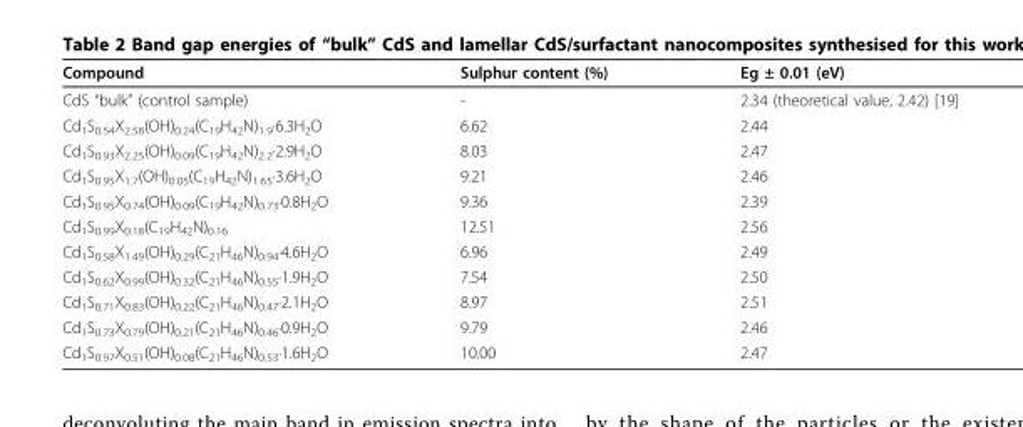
<table><thead><tr><td>Compound</td><td>Sulphur content (%)</td><td>Eg ± 0.01 (eV)</td></tr></thead><tbody><tr><td>CdS “bulk” (control sample)</td><td>-</td><td>2.34 (theoretical value, 2.42) [19]</td></tr><tr><td>Cd<sub>1</sub>S<sub>0.54</sub>X<sub>2.58</sub>(OH)<sub>0.24</sub>(C<sub>19</sub>H<sub>42</sub>N)<sub>1.9</sub>·6.3H<sub>2</sub>O</td><td>6.62</td><td>2.44</td></tr><tr><td>Cd<sub>1</sub>S<sub>0.93</sub>X<sub>2.25</sub>(OH)<sub>0.09</sub>(C<sub>19</sub>H<sub>42</sub>N)<sub>2.2</sub>·2.9H<sub>2</sub>O</td><td>8.03</td><td>2.47</td></tr><tr><td>Cd<sub>1</sub>S<sub>0.95</sub>X<sub>1.7</sub>(OH)<sub>0.05</sub>(C<sub>19</sub>H<sub>42</sub>N)<sub>1.65</sub>·3.6H<sub>2</sub>O</td><td>9.21</td><td>2.46</td></tr><tr><td>Cd<sub>1</sub>S<sub>0.95</sub>X<sub>0.74</sub>(OH)<sub>0.09</sub>(C<sub>19</sub>H<sub>42</sub>N)<sub>0.73</sub>·0.8H<sub>2</sub>O</td><td>9.36</td><td>2.39</td></tr><tr><td>Cd<sub>1</sub>S<sub>0.99</sub>X<sub>0.18</sub>(C<sub>19</sub>H<sub>42</sub>N)<sub>0.16</sub></td><td>12.51</td><td>2.56</td></tr><tr><td>Cd<sub>1</sub>S<sub>0.58</sub>X<sub>1.49</sub>(OH)<sub>0.29</sub>(C<sub>21</sub>H<sub>46</sub>N)<sub>0.94</sub>·4.6H<sub>2</sub>O</td><td>6.96</td><td>2.49</td></tr><tr><td>Cd<sub>1</sub>S<sub>0.62</sub>X<sub>0.99</sub>(OH)<sub>0.32</sub>(C<sub>21</sub>H<sub>46</sub>N)<sub>0.55</sub>·1.9H<sub>2</sub>O</td><td>7.54</td><td>2.50</td></tr><tr><td>Cd<sub>1</sub>S<sub>0.71</sub>X<sub>0.83</sub>(OH)<sub>0.22</sub>(C<sub>21</sub>H<sub>46</sub>N)<sub>0.47</sub>·2.1H<sub>2</sub>O</td><td>8.97</td><td>2.51</td></tr><tr><td>Cd<sub>1</sub>S<sub>0.73</sub>X<sub>0.79</sub>(OH)<sub>0.21</sub>(C<sub>21</sub>H<sub>46</sub>N)<sub>0.46</sub>·0.9H<sub>2</sub>O</td><td>9.79</td><td>2.46</td></tr><tr><td>Cd<sub>1</sub>S<sub>0.97</sub>X<sub>0.51</sub>(OH)<sub>0.08</sub>(C<sub>21</sub>H<sub>46</sub>N)<sub>0.53</sub>·1.6H<sub>2</sub>O</td><td>10.00</td><td>2.47</td></tr></tbody></table>